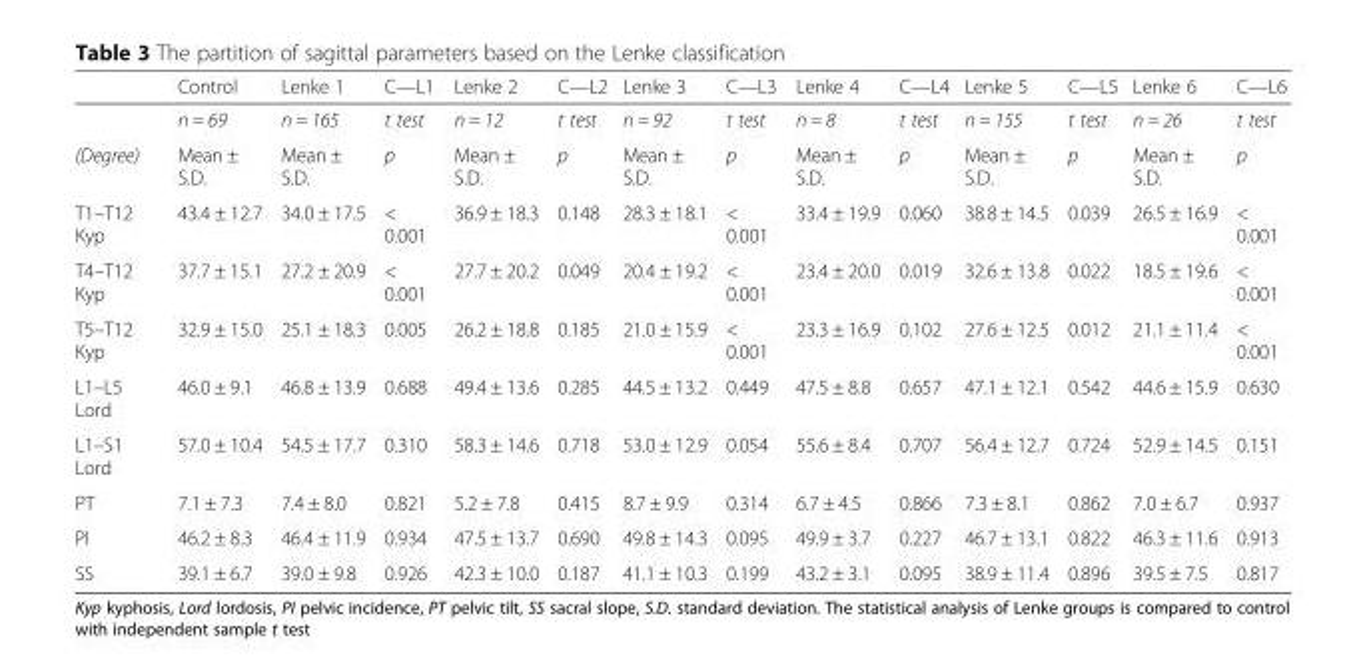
<table><thead><tr><td></td><td>Control</td><td>Lenke 1</td><td>C—L1</td><td>Lenke 2</td><td>C—L2</td><td>Lenke 3</td><td>C—L3</td><td>Lenke 4</td><td>C—L4</td><td>Lenke 5</td><td>C—L5</td><td>Lenke 6</td><td>C—L6</td></tr></thead><tbody><tr><td></td><td>n = 69</td><td>n = 165</td><td>t test</td><td>n = 12</td><td>t test</td><td>n = 92</td><td>t test</td><td>n = 8</td><td>t test</td><td>n = 155</td><td>t test</td><td>n = 26</td><td>t test</td></tr><tr><td>(Degree)</td><td>Mean ± S.D.</td><td>Mean ± S.D.</td><td>p</td><td>Mean ± S.D.</td><td>p</td><td>Mean ± S.D.</td><td>p</td><td>Mean ± S.D.</td><td>p</td><td>Mean ± S.D.</td><td>p</td><td>Mean ± S.D.</td><td>p</td></tr><tr><td>T1–T12 Kyp</td><td>43.4 ± 12.7</td><td>34.0 ± 17.5</td><td>&lt; 0.001</td><td>36.9 ± 18.3</td><td>0.148</td><td>28.3 ± 18.1</td><td>&lt; 0.001</td><td>33.4 ± 19.9</td><td>0.060</td><td>38.8 ± 14.5</td><td>0.039</td><td>26.5 ± 16.9</td><td>&lt; 0.001</td></tr><tr><td>T4–T12 Kyp</td><td>37.7 ± 15.1</td><td>27.2 ± 20.9</td><td>&lt; 0.001</td><td>27.7 ± 20.2</td><td>0.049</td><td>20.4 ± 19.2</td><td>&lt; 0.001</td><td>23.4 ± 20.0</td><td>0.019</td><td>32.6 ± 13.8</td><td>0.022</td><td>18.5 ± 19.6</td><td>&lt; 0.001</td></tr><tr><td>T5–T12 Kyp</td><td>32.9 ± 15.0</td><td>25.1 ± 18.3</td><td>0.005</td><td>26.2 ± 18.8</td><td>0.185</td><td>21.0 ± 15.9</td><td>&lt; 0.001</td><td>23.3 ± 16.9</td><td>0.102</td><td>27.6 ± 12.5</td><td>0.012</td><td>21.1 ± 11.4</td><td>&lt; 0.001</td></tr><tr><td>L1–L5 Lord</td><td>46.0 ± 9.1</td><td>46.8 ± 13.9</td><td>0.688</td><td>49.4 ± 13.6</td><td>0.285</td><td>44.5 ± 13.2</td><td>0.449</td><td>47.5 ± 8.8</td><td>0.657</td><td>47.1 ± 12.1</td><td>0.542</td><td>44.6 ± 15.9</td><td>0.630</td></tr><tr><td>L1–S1 Lord</td><td>57.0 ± 10.4</td><td>54.5 ± 17.7</td><td>0.310</td><td>58.3 ± 14.6</td><td>0.718</td><td>53.0 ± 12.9</td><td>0.054</td><td>55.6 ± 8.4</td><td>0.707</td><td>56.4 ± 12.7</td><td>0.724</td><td>52.9 ± 14.5</td><td>0.151</td></tr><tr><td>PT</td><td>7.1 ± 7.3</td><td>7.4 ± 8.0</td><td>0.821</td><td>5.2 ± 7.8</td><td>0.415</td><td>8.7 ± 9.9</td><td>0.314</td><td>6.7 ± 4.5</td><td>0.866</td><td>7.3 ± 8.1</td><td>0.862</td><td>7.0 ± 6.7</td><td>0.937</td></tr><tr><td>PI</td><td>46.2 ± 8.3</td><td>46.4 ± 11.9</td><td>0.934</td><td>47.5 ± 13.7</td><td>0.690</td><td>49.8 ± 14.3</td><td>0.095</td><td>49.9 ± 3.7</td><td>0.227</td><td>46.7 ± 13.1</td><td>0.822</td><td>46.3 ± 11.6</td><td>0.913</td></tr><tr><td>SS</td><td>39.1 ± 6.7</td><td>39.0 ± 9.8</td><td>0.926</td><td>42.3 ± 10.0</td><td>0.187</td><td>41.1 ± 10.3</td><td>0.199</td><td>43.2 ± 3.1</td><td>0.095</td><td>38.9 ± 11.4</td><td>0.896</td><td>39.5 ± 7.5</td><td>0.817</td></tr></tbody></table>